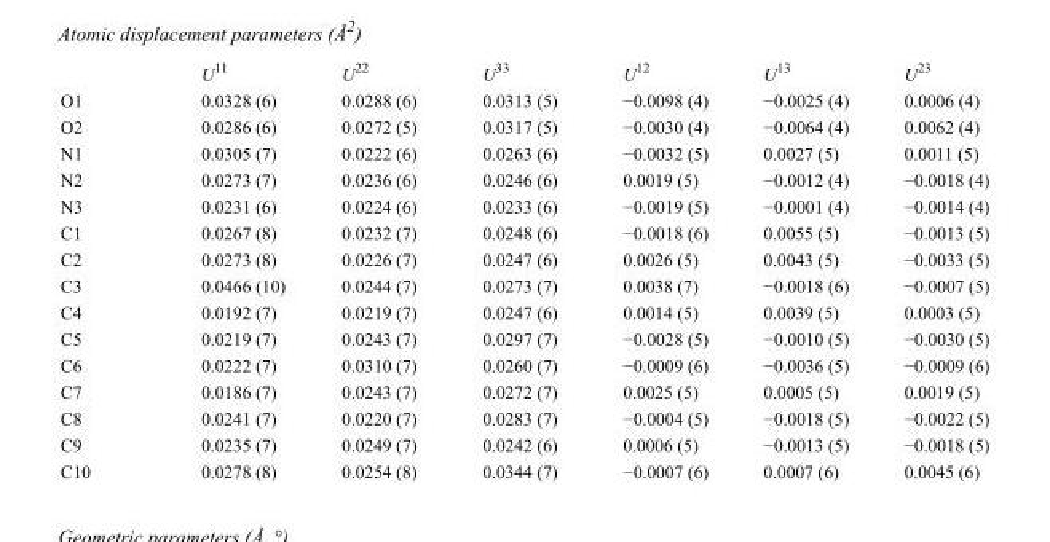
<table><thead><tr><td></td><td>U<sup>11</sup></td><td>U<sup>22</sup></td><td>U<sup>33</sup></td><td>U<sup>12</sup></td><td>U<sup>13</sup></td><td>U<sup>23</sup></td></tr></thead><tbody><tr><td>O1</td><td>0.0328 (6)</td><td>0.0288 (6)</td><td>0.0313 (5)</td><td>−0.0098 (4)</td><td>−0.0025 (4)</td><td>0.0006 (4)</td></tr><tr><td>O2</td><td>0.0286 (6)</td><td>0.0272 (5)</td><td>0.0317 (5)</td><td>−0.0030 (4)</td><td>−0.0064 (4)</td><td>0.0062 (4)</td></tr><tr><td>N1</td><td>0.0305 (7)</td><td>0.0222 (6)</td><td>0.0263 (6)</td><td>−0.0032 (5)</td><td>0.0027 (5)</td><td>0.0011 (5)</td></tr><tr><td>N2</td><td>0.0273 (7)</td><td>0.0236 (6)</td><td>0.0246 (6)</td><td>0.0019 (5)</td><td>−0.0012 (4)</td><td>−0.0018 (4)</td></tr><tr><td>N3</td><td>0.0231 (6)</td><td>0.0224 (6)</td><td>0.0233 (6)</td><td>−0.0019 (5)</td><td>−0.0001 (4)</td><td>−0.0014 (4)</td></tr><tr><td>C1</td><td>0.0267 (8)</td><td>0.0232 (7)</td><td>0.0248 (6)</td><td>−0.0018 (6)</td><td>0.0055 (5)</td><td>−0.0013 (5)</td></tr><tr><td>C2</td><td>0.0273 (8)</td><td>0.0226 (7)</td><td>0.0247 (6)</td><td>0.0026 (5)</td><td>0.0043 (5)</td><td>−0.0033 (5)</td></tr><tr><td>C3</td><td>0.0466 (10)</td><td>0.0244 (7)</td><td>0.0273 (7)</td><td>0.0038 (7)</td><td>−0.0018 (6)</td><td>−0.0007 (5)</td></tr><tr><td>C4</td><td>0.0192 (7)</td><td>0.0219 (7)</td><td>0.0247 (6)</td><td>0.0014 (5)</td><td>0.0039 (5)</td><td>0.0003 (5)</td></tr><tr><td>C5</td><td>0.0219 (7)</td><td>0.0243 (7)</td><td>0.0297 (7)</td><td>−0.0028 (5)</td><td>−0.0010 (5)</td><td>−0.0030 (5)</td></tr><tr><td>C6</td><td>0.0222 (7)</td><td>0.0310 (7)</td><td>0.0260 (7)</td><td>−0.0009 (6)</td><td>−0.0036 (5)</td><td>−0.0009 (6)</td></tr><tr><td>C7</td><td>0.0186 (7)</td><td>0.0243 (7)</td><td>0.0272 (7)</td><td>0.0025 (5)</td><td>0.0005 (5)</td><td>0.0019 (5)</td></tr><tr><td>C8</td><td>0.0241 (7)</td><td>0.0220 (7)</td><td>0.0283 (7)</td><td>−0.0004 (5)</td><td>−0.0018 (5)</td><td>−0.0022 (5)</td></tr><tr><td>C9</td><td>0.0235 (7)</td><td>0.0249 (7)</td><td>0.0242 (6)</td><td>0.0006 (5)</td><td>−0.0013 (5)</td><td>−0.0018 (5)</td></tr><tr><td>C10</td><td>0.0278 (8)</td><td>0.0254 (8)</td><td>0.0344 (7)</td><td>−0.0007 (6)</td><td>0.0007 (6)</td><td>0.0045 (6)</td></tr></tbody></table>